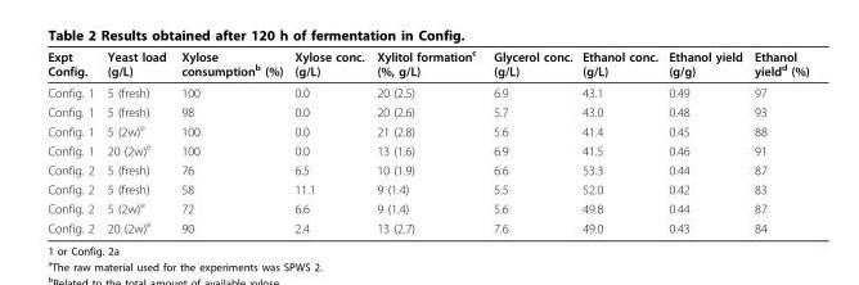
<table><thead><tr><td>Expt Config.</td><td>Yeast load (g/L)</td><td>Xylose consumption<sup>b</sup> (%)</td><td>Xylose conc. (g/L)</td><td>Xylitol formation<sup>c</sup> (%, g/L)</td><td>Glycerol conc. (g/L)</td><td>Ethanol conc. (g/L)</td><td>Ethanol yield (g/g)</td><td>Ethanol yield<sup>d</sup> (%)</td></tr></thead><tbody><tr><td>Config. 1</td><td>5 (fresh)</td><td>100</td><td>0.0</td><td>20 (2.5)</td><td>6.9</td><td>43.1</td><td>0.49</td><td>97</td></tr><tr><td>Config. 1</td><td>5 (fresh)</td><td>98</td><td>0.0</td><td>20 (2.6)</td><td>5.7</td><td>43.0</td><td>0.48</td><td>93</td></tr><tr><td>Config. 1</td><td>5 (2w)<sup>e</sup></td><td>100</td><td>0.0</td><td>21 (2.8)</td><td>5.6</td><td>41.4</td><td>0.45</td><td>88</td></tr><tr><td>Config. 1</td><td>20 (2w)<sup>e</sup></td><td>100</td><td>0.0</td><td>13 (1.6)</td><td>6.9</td><td>41.5</td><td>0.46</td><td>91</td></tr><tr><td>Config. 2</td><td>5 (fresh)</td><td>76</td><td>6.5</td><td>10 (1.9)</td><td>6.6</td><td>53.3</td><td>0.44</td><td>87</td></tr><tr><td>Config. 2</td><td>5 (fresh)</td><td>58</td><td>11.1</td><td>9 (1.4)</td><td>5.5</td><td>52.0</td><td>0.42</td><td>83</td></tr><tr><td>Config. 2</td><td>5 (2w)<sup>e</sup></td><td>72</td><td>6.6</td><td>9 (1.4)</td><td>5.6</td><td>49.8</td><td>0.44</td><td>87</td></tr><tr><td>Config. 2</td><td>20 (2w)<sup>e</sup></td><td>90</td><td>2.4</td><td>13 (2.7)</td><td>7.6</td><td>49.0</td><td>0.43</td><td>84</td></tr></tbody></table>